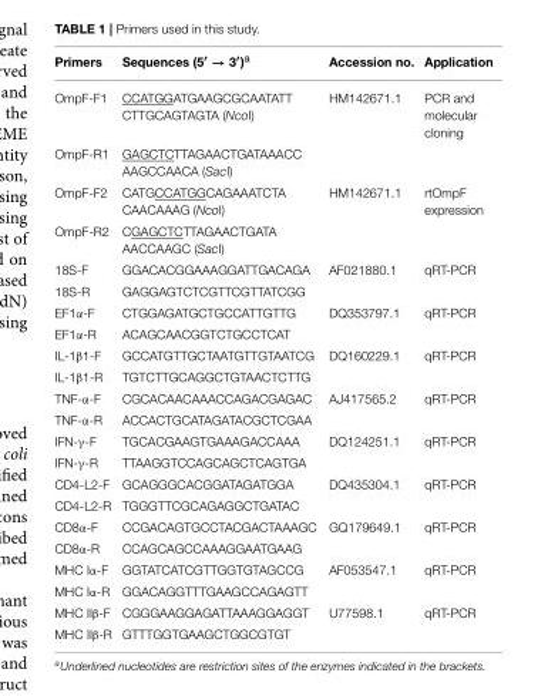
<table><thead><tr><td>Primers</td><td>Sequences (5′ → 3′)<sup>a</sup></td><td>Accession no.</td><td>Application</td></tr></thead><tbody><tr><td>OmpF-F1</td><td>CCATGGATGAAGCGCAATATT CTTGCAGTAGTA (NcoI)</td><td>HM142671.1</td><td>PCR and molecular cloning</td></tr><tr><td>OmpF-R1</td><td>GAGCTCTTAGAACTGATAAACC AAGCCAACA (SacI)</td><td></td><td></td></tr><tr><td>OmpF-F2</td><td>CATGCCATGGCAGAAATCTA CAACAAAG (NcoI)</td><td>HM142671.1</td><td>rtOmpF expression</td></tr><tr><td>OmpF-R2</td><td>CGAGCTCTTAGAACTGATA AACCAAGC (SacI)</td><td></td><td></td></tr><tr><td>18S-F</td><td>GGACACGGAAAGGATTGACAGA</td><td>AF021880.1</td><td>qRT-PCR</td></tr><tr><td>18S-R</td><td>GAGGAGTCTCGTTCGTTATCGG</td><td></td><td></td></tr><tr><td>EF1α-F</td><td>CTGGAGATGCTGCCATTGTTG</td><td>DQ353797.1</td><td>qRT-PCR</td></tr><tr><td>EF1α-R</td><td>ACAGCAACGGTCTGCCTCAT</td><td></td><td></td></tr><tr><td>IL-1β1-F</td><td>GCCATGTTGCTAATGTTGTAATCG</td><td>DQ160229.1</td><td>qRT-PCR</td></tr><tr><td>IL-1β1-R</td><td>TGTCTTGCAGGCTGTAACTCTTG</td><td></td><td></td></tr><tr><td>TNF-α-F</td><td>CGCACAACAAACCAGACGAGAC</td><td>AJ417565.2</td><td>qRT-PCR</td></tr><tr><td>TNF-α-R</td><td>ACCACTGCATAGATACGCTCGAA</td><td></td><td></td></tr><tr><td>IFN-γ-F</td><td>TGCACGAAGTGAAAGACCAAA</td><td>DQ124251.1</td><td>qRT-PCR</td></tr><tr><td>IFN-γ-R</td><td>TTAAGGTCCAGCAGCTCAGTGA</td><td></td><td></td></tr><tr><td>CD4-L2-F</td><td>GCAGGGCACGGATAGATGGA</td><td>DQ435304.1</td><td>qRT-PCR</td></tr><tr><td>CD4-L2-R</td><td>TGGGTTCGCAGAGGCTGATAC</td><td></td><td></td></tr><tr><td>CD8α-F</td><td>CCGACAGTGCCTACGACTAAAGC</td><td>GQ179649.1</td><td>qRT-PCR</td></tr><tr><td>CD8α-R</td><td>CCAGCAGCCAAAGGAATGAAG</td><td></td><td></td></tr><tr><td>MHC Iα-F</td><td>GGTATCATCGTTGGTGTAGCCG</td><td>AF053547.1</td><td>qRT-PCR</td></tr><tr><td>MHC Iα-R</td><td>GGACAGGTTTGAAGCCAGAGTT</td><td></td><td></td></tr><tr><td>MHC IIβ-F</td><td>CGGGAAGGAGATTAAAGGAGGT</td><td>U77598.1</td><td>qRT-PCR</td></tr><tr><td>MHC IIβ-R</td><td>GTTTGGTGAAGCTGGCGTGT</td><td></td><td></td></tr></tbody></table>